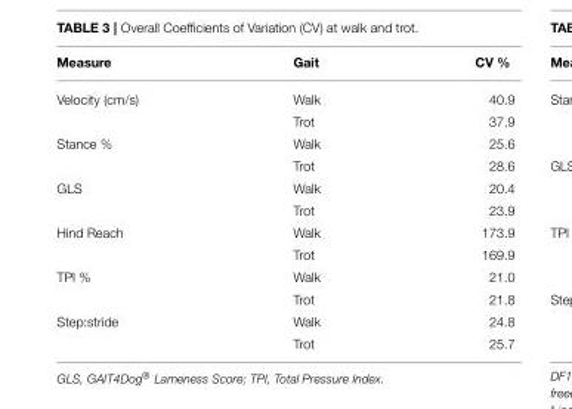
<table><thead><tr><td>Measure</td><td>Gait</td><td>CV %</td></tr></thead><tbody><tr><td rowspan="2">Velocity (cm/s)</td><td>Walk</td><td>40.9</td></tr><tr><td>Trot</td><td>37.9</td></tr><tr><td rowspan="2">Stance %</td><td>Walk</td><td>25.6</td></tr><tr><td>Trot</td><td>28.6</td></tr><tr><td rowspan="2">GLS</td><td>Walk</td><td>20.4</td></tr><tr><td>Trot</td><td>23.9</td></tr><tr><td rowspan="2">Hind Reach</td><td>Walk</td><td>173.9</td></tr><tr><td>Trot</td><td>169.9</td></tr><tr><td rowspan="2">TPI %</td><td>Walk</td><td>21.0</td></tr><tr><td>Trot</td><td>21.8</td></tr><tr><td rowspan="2">Step:stride</td><td>Walk</td><td>24.8</td></tr><tr><td>Trot</td><td>25.7</td></tr></tbody></table>